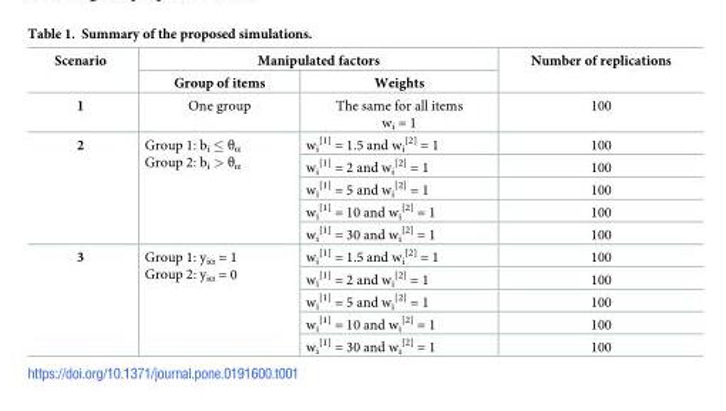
<table><thead><tr><td rowspan="2">Scenario</td><td colspan="2">Manipulated factors</td><td rowspan="2">Number of replications</td></tr><tr><td>Group of items</td><td>Weights</td></tr></thead><tbody><tr><td>1</td><td>One group</td><td>The same for all items w<sub>i</sub> = 1</td><td>100</td></tr><tr><td rowspan="5">2</td><td rowspan="5">Group 1: b<sub>i</sub> ≤ θ<sub>α</sub> Group 2: b<sub>i</sub> &gt; θ<sub>α</sub></td><td>w<sub>i</sub> <sup>[1]</sup> = 1.5 and w<sub>i</sub> <sup>[2]</sup> = 1</td><td>100</td></tr><tr><td>w<sub>i</sub> <sup>[1]</sup> = 2 and w<sub>i</sub> <sup>[2]</sup> = 1</td><td>100</td></tr><tr><td>w<sub>i</sub> <sup>[1]</sup> = 5 and w<sub>i</sub> <sup>[2]</sup> = 1</td><td>100</td></tr><tr><td>w<sub>i</sub> <sup>[1]</sup> = 10 and w<sub>i</sub> <sup>[2]</sup> = 1</td><td>100</td></tr><tr><td>w<sub>i</sub> <sup>[1]</sup> = 30 and w<sub>i</sub> <sup>[2]</sup> = 1</td><td>100</td></tr><tr><td rowspan="5">3</td><td rowspan="5">Group 1: y<sub>iα</sub> = 1 Group 2: y<sub>iα</sub> = 0</td><td>w<sub>i</sub> <sup>[1]</sup> = 1.5 and w<sub>i</sub> <sup>[2]</sup> = 1</td><td>100</td></tr><tr><td>w<sub>i</sub> <sup>[1]</sup> = 2 and w<sub>i</sub> <sup>[2]</sup> = 1</td><td>100</td></tr><tr><td>w<sub>i</sub> <sup>[1]</sup> = 5 and w<sub>i</sub> <sup>[2]</sup> = 1</td><td>100</td></tr><tr><td>w<sub>i</sub> <sup>[1]</sup> = 10 and w<sub>i</sub> <sup>[2]</sup> = 1</td><td>100</td></tr><tr><td>w<sub>i</sub> <sup>[1]</sup> = 30 and w<sub>i</sub> <sup>[2]</sup> = 1</td><td>100</td></tr></tbody></table>